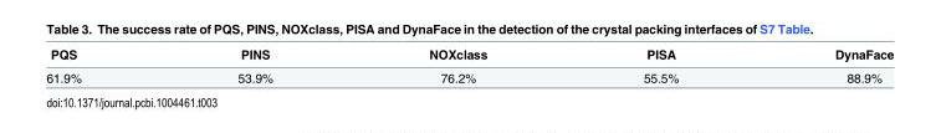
<table><thead><tr><td>PQS</td><td>PINS</td><td>NOXclass</td><td>PISA</td><td>DynaFace</td></tr></thead><tbody><tr><td>61.9%</td><td>53.9%</td><td>76.2%</td><td>55.5%</td><td>88.9%</td></tr></tbody></table>